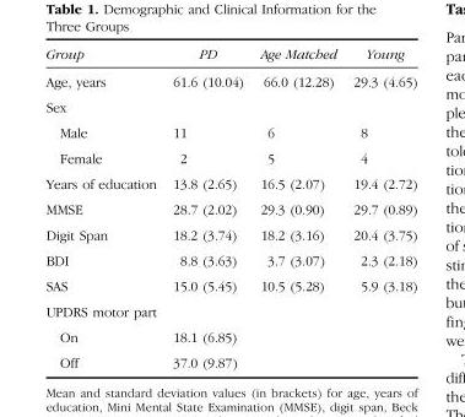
<table><thead><tr><td>Group</td><td>PD</td><td>Age Matched</td><td>Young</td></tr></thead><tbody><tr><td>Age, years</td><td>61.6 (10.04)</td><td>66.0 (12.28)</td><td>29.3 (4.65)</td></tr><tr><td colspan="4">Sex</td></tr><tr><td>Male</td><td>11</td><td>6</td><td>8</td></tr><tr><td>Female</td><td>2</td><td>5</td><td>4</td></tr><tr><td>Years of education</td><td>13.8 (2.65)</td><td>16.5 (2.07)</td><td>19.4 (2.72)</td></tr><tr><td>MMSE</td><td>28.7 (2.02)</td><td>29.3 (0.90)</td><td>29.7 (0.89)</td></tr><tr><td>Digit Span</td><td>18.2 (3.74)</td><td>18.2 (3.16)</td><td>20.4 (3.75)</td></tr><tr><td>BDI</td><td>8.8 (3.63)</td><td>3.7 (3.07)</td><td>2.3 (2.18)</td></tr><tr><td>SAS</td><td>15.0 (5.45)</td><td>10.5 (5.28)</td><td>5.9 (3.18)</td></tr><tr><td colspan="4">UPDRS motor part</td></tr><tr><td>On</td><td>18.1 (6.85)</td><td></td><td></td></tr><tr><td>Off</td><td>37.0 (9.87)</td><td></td><td></td></tr></tbody></table>